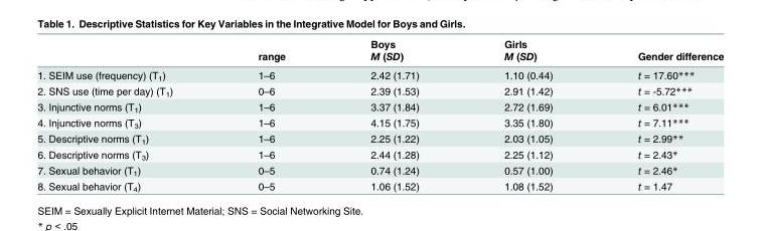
<table><thead><tr><td rowspan="2"></td><td rowspan="2">range</td><td rowspan="2">Boys M (SD)</td><td rowspan="2">Girls M (SD)</td><td rowspan="2">Gender difference</td></tr><tr></tr></thead><tbody><tr><td>1. SEIM use (frequency) (T<sub>1</sub>)</td><td>1–6</td><td>2.42 (1.71)</td><td>1.10 (0.44)</td><td>t = 17.60***</td></tr><tr><td>2. SNS use (time per day) (T<sub>1</sub>)</td><td>0–6</td><td>2.39 (1.53)</td><td>2.91 (1.42)</td><td>t = -5.72***</td></tr><tr><td>3. Injunctive norms (T<sub>1</sub>)</td><td>1–6</td><td>3.37 (1.84)</td><td>2.72 (1.69)</td><td>t = 6.01***</td></tr><tr><td>4. Injunctive norms (T<sub>3</sub>)</td><td>1–6</td><td>4.15 (1.75)</td><td>3.35 (1.80)</td><td>t = 7.11***</td></tr><tr><td>5. Descriptive norms (T<sub>1</sub>)</td><td>1–6</td><td>2.25 (1.22)</td><td>2.03 (1.05)</td><td>t = 2.99**</td></tr><tr><td>6. Descriptive norms (T<sub>3</sub>)</td><td>1–6</td><td>2.44 (1.28)</td><td>2.25 (1.12)</td><td>t = 2.43*</td></tr><tr><td>7. Sexual behavior (T<sub>1</sub>)</td><td>0–5</td><td>0.74 (1.24)</td><td>0.57 (1.00)</td><td>t = 2.46*</td></tr><tr><td>8. Sexual behavior (T<sub>4</sub>)</td><td>0–5</td><td>1.06 (1.52)</td><td>1.08 (1.52)</td><td>t = 1.47</td></tr></tbody></table>